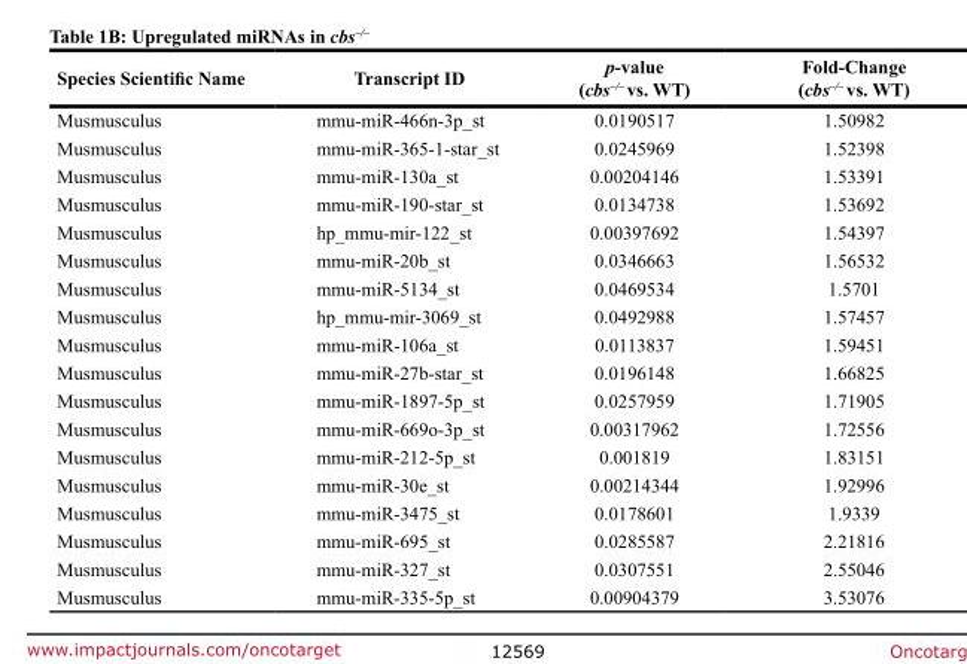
<table><thead><tr><td>Species Scientific Name</td><td>Transcript ID</td><td>p-value (cbs<sup>–/–</sup> vs. WT)</td><td>Fold-Change (cbs<sup>–/–</sup> vs. WT)</td></tr></thead><tbody><tr><td>Musmusculus</td><td>mmu-miR-466n-3p_st</td><td>0.0190517</td><td>1.50982</td></tr><tr><td>Musmusculus</td><td>mmu-miR-365-1-star_st</td><td>0.0245969</td><td>1.52398</td></tr><tr><td>Musmusculus</td><td>mmu-miR-130a_st</td><td>0.00204146</td><td>1.53391</td></tr><tr><td>Musmusculus</td><td>mmu-miR-190-star_st</td><td>0.0134738</td><td>1.53692</td></tr><tr><td>Musmusculus</td><td>hp_mmu-mir-122_st</td><td>0.00397692</td><td>1.54397</td></tr><tr><td>Musmusculus</td><td>mmu-miR-20b_st</td><td>0.0346663</td><td>1.56532</td></tr><tr><td>Musmusculus</td><td>mmu-miR-5134_st</td><td>0.0469534</td><td>1.5701</td></tr><tr><td>Musmusculus</td><td>hp_mmu-mir-3069_st</td><td>0.0492988</td><td>1.57457</td></tr><tr><td>Musmusculus</td><td>mmu-miR-106a_st</td><td>0.0113837</td><td>1.59451</td></tr><tr><td>Musmusculus</td><td>mmu-miR-27b-star_st</td><td>0.0196148</td><td>1.66825</td></tr><tr><td>Musmusculus</td><td>mmu-miR-1897-5p_st</td><td>0.0257959</td><td>1.71905</td></tr><tr><td>Musmusculus</td><td>mmu-miR-669o-3p_st</td><td>0.00317962</td><td>1.72556</td></tr><tr><td>Musmusculus</td><td>mmu-miR-212-5p_st</td><td>0.001819</td><td>1.83151</td></tr><tr><td>Musmusculus</td><td>mmu-miR-30e_st</td><td>0.00214344</td><td>1.92996</td></tr><tr><td>Musmusculus</td><td>mmu-miR-3475_st</td><td>0.0178601</td><td>1.9339</td></tr><tr><td>Musmusculus</td><td>mmu-miR-695_st</td><td>0.0285587</td><td>2.21816</td></tr><tr><td>Musmusculus</td><td>mmu-miR-327_st</td><td>0.0307551</td><td>2.55046</td></tr><tr><td>Musmusculus</td><td>mmu-miR-335-5p_st</td><td>0.00904379</td><td>3.53076</td></tr></tbody></table>